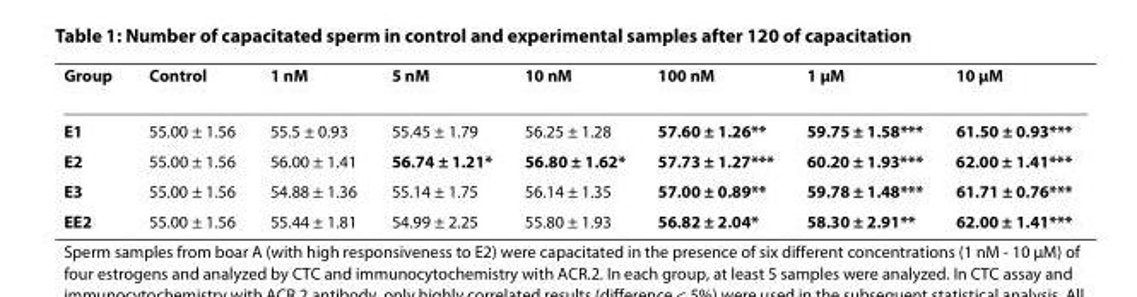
<table><thead><tr><td>Group</td><td>Control</td><td>1 nM</td><td>5 nM</td><td>10 nM</td><td>100 nM</td><td>1 μM</td><td>10 μM</td></tr></thead><tbody><tr><td>E1</td><td>55.00 ± 1.56</td><td>55.5 ± 0.93</td><td>55.45 ± 1.79</td><td>56.25 ± 1.28</td><td>57.60 ± 1.26**</td><td>59.75 ± 1.58***</td><td>61.50 ± 0.93***</td></tr><tr><td>E2</td><td>55.00 ± 1.56</td><td>56.00 ± 1.41</td><td>56.74 ± 1.21*</td><td>56.80 ± 1.62*</td><td>57.73 ± 1.27***</td><td>60.20 ± 1.93***</td><td>62.00 ± 1.41***</td></tr><tr><td>E3</td><td>55.00 ± 1.56</td><td>54.88 ± 1.36</td><td>55.14 ± 1.75</td><td>56.14 ± 1.35</td><td>57.00 ± 0.89**</td><td>59.78 ± 1.48***</td><td>61.71 ± 0.76***</td></tr><tr><td>EE2</td><td>55.00 ± 1.56</td><td>55.44 ± 1.81</td><td>54.99 ± 2.25</td><td>55.80 ± 1.93</td><td>56.82 ± 2.04*</td><td>58.30 ± 2.91**</td><td>62.00 ± 1.41***</td></tr></tbody></table>